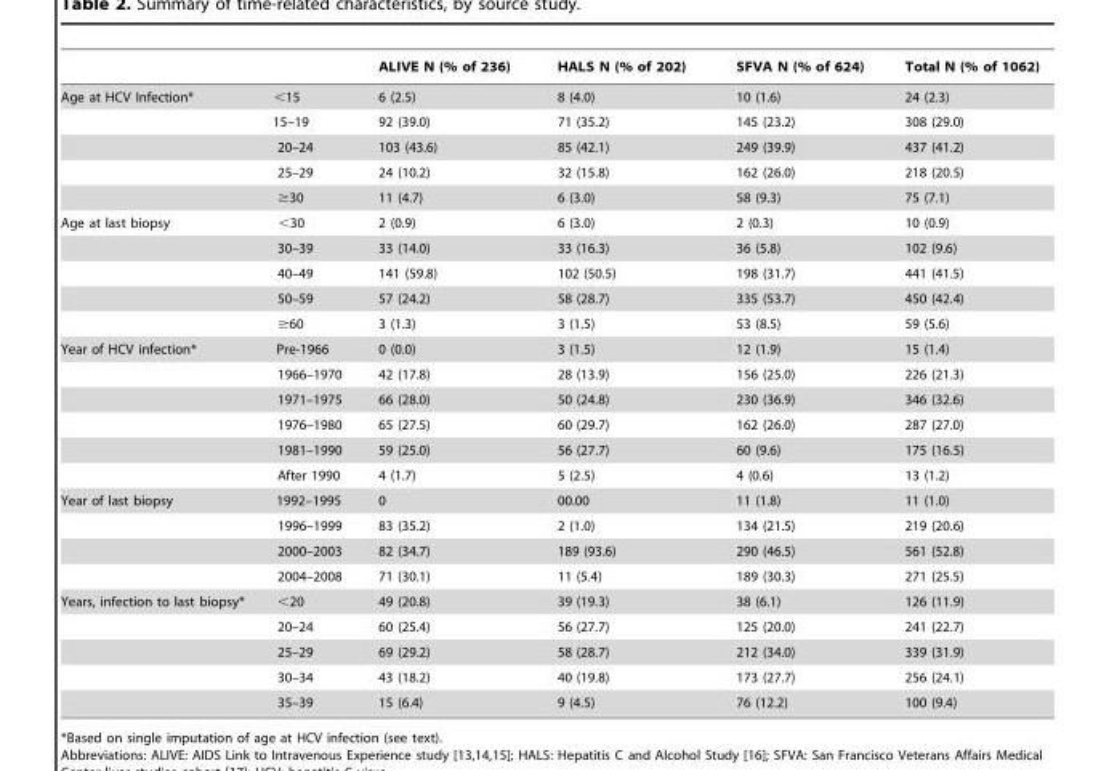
<table><thead><tr><td></td><td>ALIVE N (% of 236)</td><td>HALS N (% of 202)</td><td>SFVA N (% of 624)</td><td>Total N (% of 1062)</td></tr></thead><tbody><tr><td>Age at HCV Infection* &lt;15</td><td>6 (2.5)</td><td>8 (4.0)</td><td>10 (1.6)</td><td>24 (2.3)</td></tr><tr><td>15–19</td><td>92 (39.0)</td><td>71 (35.2)</td><td>145 (23.2)</td><td>308 (29.0)</td></tr><tr><td>20–24</td><td>103 (43.6)</td><td>85 (42.1)</td><td>249 (39.9)</td><td>437 (41.2)</td></tr><tr><td>25–29</td><td>24 (10.2)</td><td>32 (15.8)</td><td>162 (26.0)</td><td>218 (20.5)</td></tr><tr><td>≥30</td><td>11 (4.7)</td><td>6 (3.0)</td><td>58 (9.3)</td><td>75 (7.1)</td></tr><tr><td>Age at last biopsy &lt;30</td><td>2 (0.9)</td><td>6 (3.0)</td><td>2 (0.3)</td><td>10 (0.9)</td></tr><tr><td>30–39</td><td>33 (14.0)</td><td>33 (16.3)</td><td>36 (5.8)</td><td>102 (9.6)</td></tr><tr><td>40–49</td><td>141 (59.8)</td><td>102 (50.5)</td><td>198 (31.7)</td><td>441 (41.5)</td></tr><tr><td>50–59</td><td>57 (24.2)</td><td>58 (28.7)</td><td>335 (53.7)</td><td>450 (42.4)</td></tr><tr><td>≥60</td><td>3 (1.3)</td><td>3 (1.5)</td><td>53 (8.5)</td><td>59 (5.6)</td></tr><tr><td>Year of HCV infection* Pre-1966</td><td>0 (0.0)</td><td>3 (1.5)</td><td>12 (1.9)</td><td>15 (1.4)</td></tr><tr><td>1966–1970</td><td>42 (17.8)</td><td>28 (13.9)</td><td>156 (25.0)</td><td>226 (21.3)</td></tr><tr><td>1971–1975</td><td>66 (28.0)</td><td>50 (24.8)</td><td>230 (36.9)</td><td>346 (32.6)</td></tr><tr><td>1976–1980</td><td>65 (27.5)</td><td>60 (29.7)</td><td>162 (26.0)</td><td>287 (27.0)</td></tr><tr><td>1981–1990</td><td>59 (25.0)</td><td>56 (27.7)</td><td>60 (9.6)</td><td>175 (16.5)</td></tr><tr><td>After 1990</td><td>4 (1.7)</td><td>5 (2.5)</td><td>4 (0.6)</td><td>13 (1.2)</td></tr><tr><td>Year of last biopsy 1992–1995</td><td>0</td><td>00.00</td><td>11 (1.8)</td><td>11 (1.0)</td></tr><tr><td>1996–1999</td><td>83 (35.2)</td><td>2 (1.0)</td><td>134 (21.5)</td><td>219 (20.6)</td></tr><tr><td>2000–2003</td><td>82 (34.7)</td><td>189 (93.6)</td><td>290 (46.5)</td><td>561 (52.8)</td></tr><tr><td>2004–2008</td><td>71 (30.1)</td><td>11 (5.4)</td><td>189 (30.3)</td><td>271 (25.5)</td></tr><tr><td>Years, infection to last biopsy* &lt;20</td><td>49 (20.8)</td><td>39 (19.3)</td><td>38 (6.1)</td><td>126 (11.9)</td></tr><tr><td>20–24</td><td>60 (25.4)</td><td>56 (27.7)</td><td>125 (20.0)</td><td>241 (22.7)</td></tr><tr><td>25–29</td><td>69 (29.2)</td><td>58 (28.7)</td><td>212 (34.0)</td><td>339 (31.9)</td></tr><tr><td>30–34</td><td>43 (18.2)</td><td>40 (19.8)</td><td>173 (27.7)</td><td>256 (24.1)</td></tr><tr><td>35–39</td><td>15 (6.4)</td><td>9 (4.5)</td><td>76 (12.2)</td><td>100 (9.4)</td></tr></tbody></table>